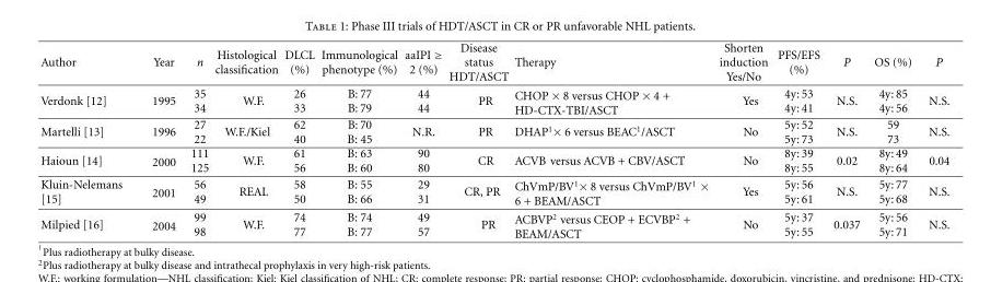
<table><thead><tr><td>Author</td><td>Year</td><td>n</td><td>Histological classification</td><td>DLCL (%)</td><td>Immunological phenotype (%)</td><td>aaIPI ≥ 2 (%)</td><td>Disease status HDT/ASCT</td><td>Therapy</td><td>Shorten induction Yes/No</td><td>PFS/EFS (%)</td><td>P</td><td>OS (%)</td><td>P</td></tr></thead><tbody><tr><td>Verdonk [12]</td><td>1995</td><td>35 34</td><td>W.F.</td><td>26 33</td><td>B: 77 B: 79</td><td>44 44</td><td>PR</td><td>CHOP × 8 versus CHOP × 4 + HD-CTX-TBI/ASCT</td><td>Yes</td><td>4y: 53 4y: 41</td><td>N.S.</td><td>4y: 85 4y: 56</td><td>N.S.</td></tr><tr><td>Martelli [13]</td><td>1996</td><td>27 22</td><td>W.F./Kiel</td><td>62 40</td><td>B: 70 B: 45</td><td>N.R.</td><td>PR</td><td>DHAP<sup>1</sup>× 6 versus BEAC<sup>1</sup>/ASCT</td><td>No</td><td>5y: 52 5y: 73</td><td>N.S.</td><td>59 73</td><td>N.S.</td></tr><tr><td>Haioun [14]</td><td>2000</td><td>111 125</td><td>W.F.</td><td>61 56</td><td>B: 63 B: 60</td><td>90 80</td><td>CR</td><td>ACVB versus ACVB + CBV/ASCT</td><td>No</td><td>8y: 39 8y: 55</td><td>0.02</td><td>8y: 49 8y: 64</td><td>0.04</td></tr><tr><td>Kluin-Nelemans [15]</td><td>2001</td><td>56 49</td><td>REAL</td><td>58 50</td><td>B: 55 B: 66</td><td>29 31</td><td>CR, PR</td><td>ChVmP/BV<sup>1</sup>× 8 versus ChVmP/BV<sup>1</sup> × 6 + BEAM/ASCT</td><td>Yes</td><td>5y: 56 5y: 61</td><td>N.S.</td><td>5y: 77 5y: 68</td><td>N.S.</td></tr><tr><td>Milpied [16]</td><td>2004</td><td>99 98</td><td>W.F.</td><td>74 77</td><td>B: 74 B: 77</td><td>49 57</td><td>PR</td><td>ACBVP<sup>2</sup> versus CEOP + ECVBP<sup>2</sup> + BEAM/ASCT</td><td>No</td><td>5y: 37 5y: 55</td><td>0.037</td><td>5y: 56 5y: 71</td><td>N.S.</td></tr></tbody></table>